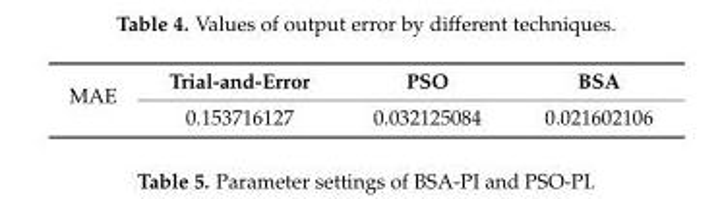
<table><tbody><tr><td rowspan="2">MAE</td><td>Trial-and-Error</td><td>PSO</td><td>BSA</td></tr><tr><td>0.153716127</td><td>0.032125084</td><td>0.021602106</td></tr></tbody></table>